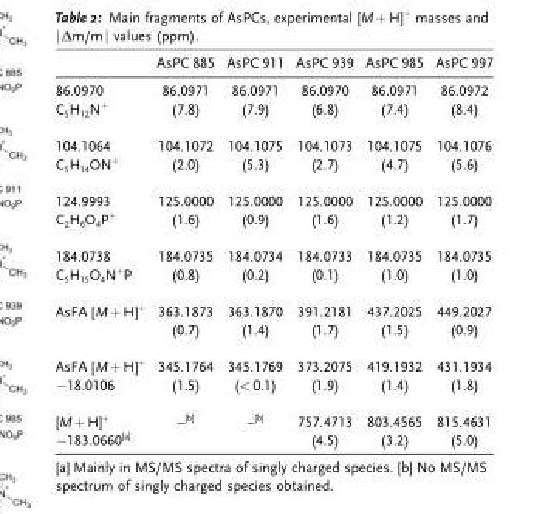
<table><thead><tr><td></td><td>AsPC 885</td><td>AsPC 911</td><td>AsPC 939</td><td>AsPC 985</td><td>AsPC 997</td></tr></thead><tbody><tr><td>86.0970 C<sub>5</sub>H<sub>12</sub>N<sup>+</sup></td><td>86.0971 (7.8)</td><td>86.0971 (7.9)</td><td>86.0970 (6.8)</td><td>86.0971 (7.4)</td><td>86.0972 (8.4)</td></tr><tr><td>104.1064 C<sub>5</sub>H<sub>14</sub>ON<sup>+</sup></td><td>104.1072 (2.0)</td><td>104.1075 (5.3)</td><td>104.1073 (2.7)</td><td>104.1075 (4.7)</td><td>104.1076 (5.6)</td></tr><tr><td>124.9993 C<sub>2</sub>H<sub>6</sub>O<sub>4</sub>P<sup>+</sup></td><td>125.0000 (1.6)</td><td>125.0000 (0.9)</td><td>125.0000 (1.6)</td><td>125.0000 (1.2)</td><td>125.0000 (1.7)</td></tr><tr><td>184.0738 C<sub>5</sub>H<sub>15</sub>O<sub>4</sub>N<sup>+</sup>P</td><td>184.0735 (0.8)</td><td>184.0734 (0.2)</td><td>184.0733 (0.1)</td><td>184.0735 (1.0)</td><td>184.0735 (1.0)</td></tr><tr><td>AsFA [M+H]<sup>+</sup></td><td>363.1873 (0.7)</td><td>363.1870 (1.4)</td><td>391.2181 (1.7)</td><td>437.2025 (1.5)</td><td>449.2027 (0.9)</td></tr><tr><td>AsFA [M+H]<sup>+</sup> −18.0106</td><td>345.1764 (1.5)</td><td>345.1769 (&lt;0.1)</td><td>373.2075 (1.9)</td><td>419.1932 (1.4)</td><td>431.1934 (1.8)</td></tr><tr><td>[M+H]<sup>+</sup> −183.0660<sup>[a]</sup></td><td>–<sup>[b]</sup></td><td>–<sup>[b]</sup></td><td>757.4713 (4.5)</td><td>803.4565 (3.2)</td><td>815.4631 (5.0)</td></tr></tbody></table>